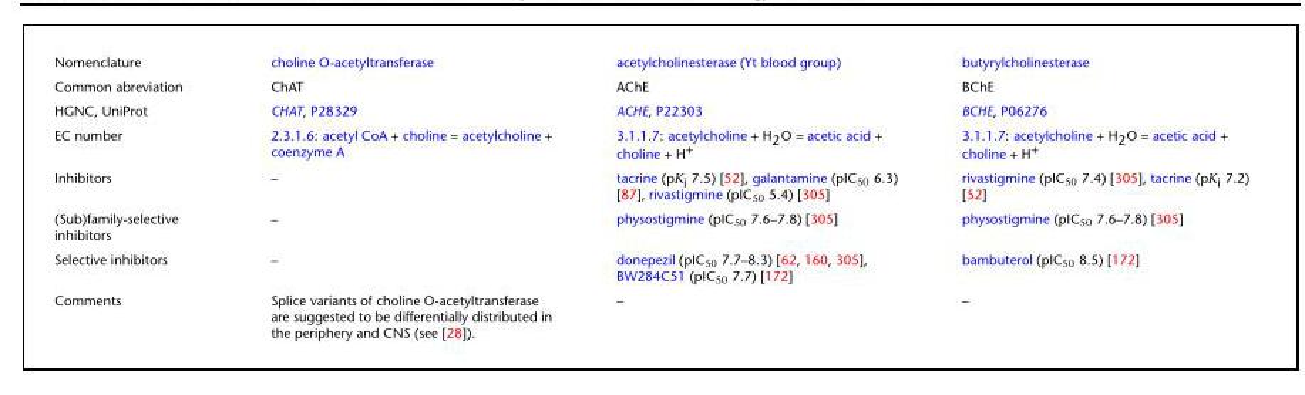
<table><tbody><tr><td>Nomenclature</td><td>choline O-acetyltransferase</td><td>acetylcholinesterase (Yt blood group)</td><td>butyrylcholinesterase</td></tr><tr><td>Common abreviation</td><td>ChAT</td><td>AChE</td><td>BChE</td></tr><tr><td>HGNC, UniProt</td><td>CHAT, P28329</td><td>ACHE, P22303</td><td>BCHE, P06276</td></tr><tr><td>EC number</td><td>2.3.1.6: acetyl CoA + choline = acetylcholine + coenzyme A</td><td>3.1.1.7: acetylcholine + H<sub>2</sub>O = acetic acid + choline + H<sup>+</sup></td><td>3.1.1.7: acetylcholine + H<sub>2</sub>O = acetic acid + choline + H<sup>+</sup></td></tr><tr><td>Inhibitors</td><td>–</td><td>tacrine (pK<sub>i</sub> 7.5) [52], galantamine (pIC<sub>50</sub> 6.3) [87], rivastigmine (pIC<sub>50</sub> 5.4) [305]</td><td>rivastigmine (pIC<sub>50</sub> 7.4) [305], tacrine (pK<sub>i</sub> 7.2) [52]</td></tr><tr><td>(Sub)family-selective inhibitors</td><td>–</td><td>physostigmine (pIC<sub>50</sub> 7.6–7.8) [305]</td><td>physostigmine (pIC<sub>50</sub> 7.6–7.8) [305]</td></tr><tr><td>Selective inhibitors</td><td>–</td><td>donepezil (pIC<sub>50</sub> 7.7–8.3) [62, 160, 305], BW284C51 (pIC<sub>50</sub> 7.7) [172]</td><td>bambuterol (pIC<sub>50</sub> 8.5) [172]</td></tr><tr><td>Comments</td><td>Splice variants of choline O-acetyltransferase are suggested to be differentially distributed in the periphery and CNS (see [28]).</td><td>–</td><td>–</td></tr></tbody></table>